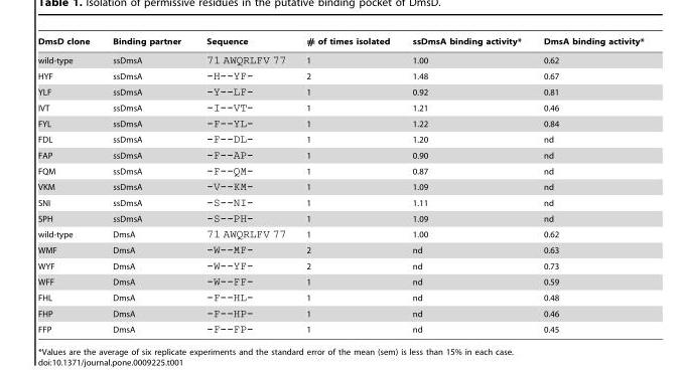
<table><thead><tr><td>DmsD clone</td><td>Binding partner</td><td>Sequence</td><td># of times isolated</td><td>ssDmsA binding activity*</td><td>DmsA binding activity*</td></tr></thead><tbody><tr><td>wild-type</td><td>ssDmsA</td><td>71 AWQRLFV 77</td><td>1</td><td>1.00</td><td>0.62</td></tr><tr><td>HYF</td><td>ssDmsA</td><td>-H--YF-</td><td>2</td><td>1.48</td><td>0.67</td></tr><tr><td>YLF</td><td>ssDmsA</td><td>-Y--LF-</td><td>1</td><td>0.92</td><td>0.81</td></tr><tr><td>IVT</td><td>ssDmsA</td><td>-I--VT-</td><td>1</td><td>1.21</td><td>0.46</td></tr><tr><td>FYL</td><td>ssDmsA</td><td>-F--YL-</td><td>1</td><td>1.22</td><td>0.84</td></tr><tr><td>FDL</td><td>ssDmsA</td><td>-F--DL-</td><td>1</td><td>1.20</td><td>nd</td></tr><tr><td>FAP</td><td>ssDmsA</td><td>-F--AP-</td><td>1</td><td>0.90</td><td>nd</td></tr><tr><td>FQM</td><td>ssDmsA</td><td>-F--QM-</td><td>1</td><td>0.87</td><td>nd</td></tr><tr><td>VKM</td><td>ssDmsA</td><td>-V--KM-</td><td>1</td><td>1.09</td><td>nd</td></tr><tr><td>SNI</td><td>ssDmsA</td><td>-S--NI-</td><td>1</td><td>1.11</td><td>nd</td></tr><tr><td>SPH</td><td>ssDmsA</td><td>-S--PH-</td><td>1</td><td>1.09</td><td>nd</td></tr><tr><td>wild-type</td><td>DmsA</td><td>71 AWQRLFV 77</td><td>1</td><td>1.00</td><td>0.62</td></tr><tr><td>WMF</td><td>DmsA</td><td>-W--MF-</td><td>2</td><td>nd</td><td>0.63</td></tr><tr><td>WYF</td><td>DmsA</td><td>-W--YF-</td><td>2</td><td>nd</td><td>0.73</td></tr><tr><td>WFF</td><td>DmsA</td><td>-W--FF-</td><td>1</td><td>nd</td><td>0.59</td></tr><tr><td>FHL</td><td>DmsA</td><td>-F--HL-</td><td>1</td><td>nd</td><td>0.48</td></tr><tr><td>FHP</td><td>DmsA</td><td>-F--HP-</td><td>1</td><td>nd</td><td>0.46</td></tr><tr><td>FFP</td><td>DmsA</td><td>-F--FP-</td><td>1</td><td>nd</td><td>0.45</td></tr></tbody></table>